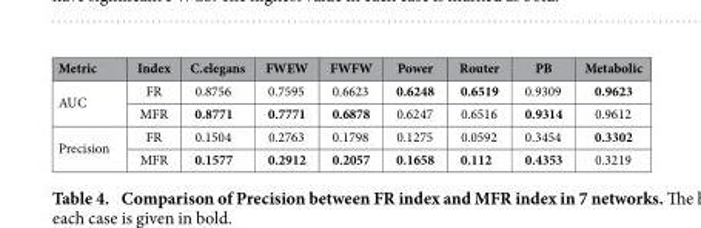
<table><thead><tr><td>Metric</td><td>Index</td><td>C.elegans</td><td>FWEW</td><td>FWFW</td><td>Power</td><td>Router</td><td>PB</td><td>Metabolic</td></tr></thead><tbody><tr><td rowspan="2">AUC</td><td>FR</td><td>0.8756</td><td>0.7595</td><td>0.6623</td><td>0.6248</td><td>0.6519</td><td>0.9309</td><td>0.9623</td></tr><tr><td>MFR</td><td>0.8771</td><td>0.7771</td><td>0.6878</td><td>0.6247</td><td>0.6516</td><td>0.9314</td><td>0.9612</td></tr><tr><td rowspan="2">Precision</td><td>FR</td><td>0.1504</td><td>0.2763</td><td>0.1798</td><td>0.1275</td><td>0.0592</td><td>0.3454</td><td>0.3302</td></tr><tr><td>MFR</td><td>0.1577</td><td>0.2912</td><td>0.2057</td><td>0.1658</td><td>0.112</td><td>0.4353</td><td>0.3219</td></tr></tbody></table>